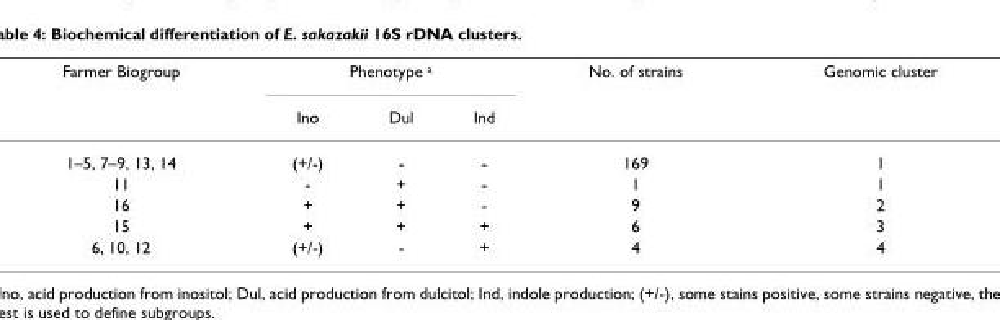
<table><thead><tr><td rowspan="2">Farmer Biogroup</td><td colspan="3">Phenotype a</td><td rowspan="2">No. of strains</td><td rowspan="2">Genomic cluster</td></tr><tr><td>Ino</td><td>Dul</td><td>Ind</td></tr></thead><tbody><tr><td>1–5, 7–9, 13, 14</td><td>(+/-)</td><td>-</td><td>-</td><td>169</td><td>1</td></tr><tr><td>11</td><td>-</td><td>+</td><td>-</td><td>1</td><td>1</td></tr><tr><td>16</td><td>+</td><td>+</td><td>-</td><td>9</td><td>2</td></tr><tr><td>15</td><td>+</td><td>+</td><td>+</td><td>6</td><td>3</td></tr><tr><td>6, 10, 12</td><td>(+/-)</td><td>-</td><td>+</td><td>4</td><td>4</td></tr></tbody></table>